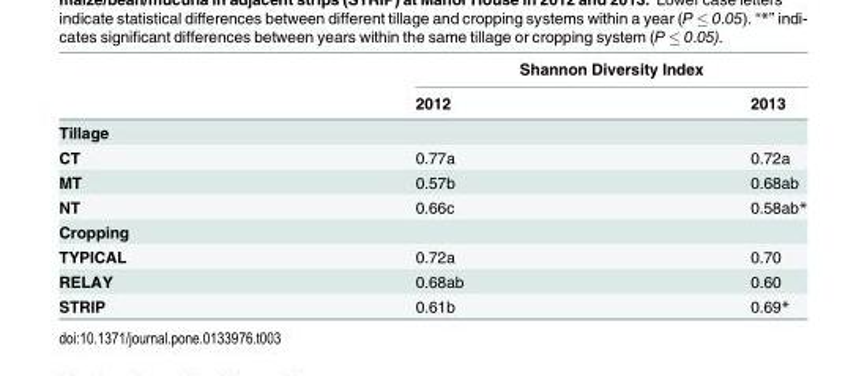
<table><thead><tr><td rowspan="2"></td><td colspan="2">Shannon Diversity Index</td></tr><tr><td>2012</td><td>2013</td></tr></thead><tbody><tr><td colspan="3">Tillage</td></tr><tr><td>CT</td><td>0.77a</td><td>0.72a</td></tr><tr><td>MT</td><td>0.57b</td><td>0.68ab</td></tr><tr><td>NT</td><td>0.66c</td><td>0.58ab*</td></tr><tr><td colspan="3">Cropping</td></tr><tr><td>TYPICAL</td><td>0.72a</td><td>0.70</td></tr><tr><td>RELAY</td><td>0.68ab</td><td>0.60</td></tr><tr><td>STRIP</td><td>0.61b</td><td>0.69*</td></tr></tbody></table>